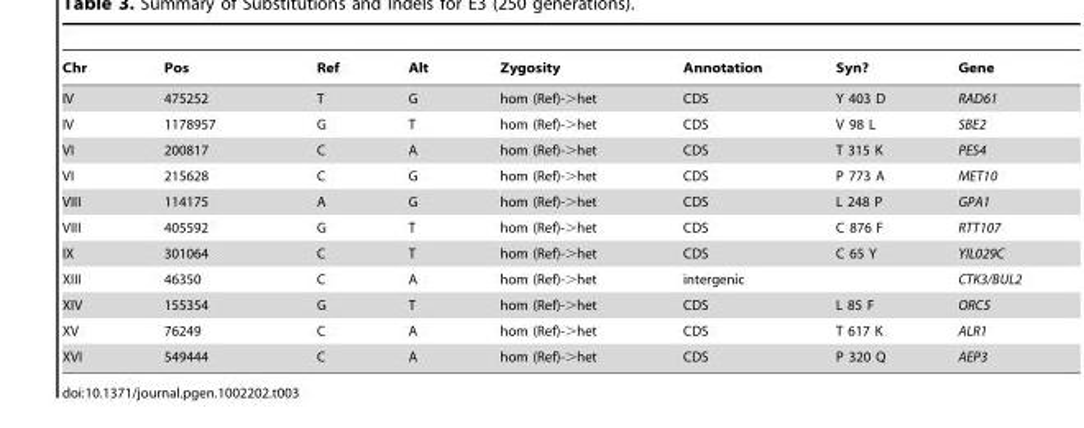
<table><thead><tr><td>Chr</td><td>Pos</td><td>Ref</td><td>Alt</td><td>Zygosity</td><td>Annotation</td><td>Syn?</td><td>Gene</td></tr></thead><tbody><tr><td>IV</td><td>475252</td><td>T</td><td>G</td><td>hom (Ref)-&gt;het</td><td>CDS</td><td>Y 403 D</td><td>RAD61</td></tr><tr><td>IV</td><td>1178957</td><td>G</td><td>T</td><td>hom (Ref)-&gt;het</td><td>CDS</td><td>V 98 L</td><td>SBE2</td></tr><tr><td>VI</td><td>200817</td><td>C</td><td>A</td><td>hom (Ref)-&gt;het</td><td>CDS</td><td>T 315 K</td><td>PES4</td></tr><tr><td>VI</td><td>215628</td><td>C</td><td>G</td><td>hom (Ref)-&gt;het</td><td>CDS</td><td>P 773 A</td><td>MET10</td></tr><tr><td>VIII</td><td>114175</td><td>A</td><td>G</td><td>hom (Ref)-&gt;het</td><td>CDS</td><td>L 248 P</td><td>GPA1</td></tr><tr><td>VIII</td><td>405592</td><td>G</td><td>T</td><td>hom (Ref)-&gt;het</td><td>CDS</td><td>C 876 F</td><td>RTT107</td></tr><tr><td>IX</td><td>301064</td><td>C</td><td>T</td><td>hom (Ref)-&gt;het</td><td>CDS</td><td>C 65 Y</td><td>YIL029C</td></tr><tr><td>XIII</td><td>46350</td><td>C</td><td>A</td><td>hom (Ref)-&gt;het</td><td>intergenic</td><td></td><td>CTK3/BUL2</td></tr><tr><td>XIV</td><td>155354</td><td>G</td><td>T</td><td>hom (Ref)-&gt;het</td><td>CDS</td><td>L 85 F</td><td>ORC5</td></tr><tr><td>XV</td><td>76249</td><td>C</td><td>A</td><td>hom (Ref)-&gt;het</td><td>CDS</td><td>T 617 K</td><td>ALR1</td></tr><tr><td>XVI</td><td>549444</td><td>C</td><td>A</td><td>hom (Ref)-&gt;het</td><td>CDS</td><td>P 320 Q</td><td>AEP3</td></tr></tbody></table>